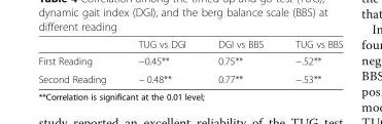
<table><thead><tr><td></td><td>TUG vs DGI</td><td>DGI vs BBS</td><td>TUG vs BBS</td></tr></thead><tbody><tr><td>First Reading</td><td>−0.45**</td><td>0.75**</td><td>−.52**</td></tr><tr><td>Second Reading</td><td>− 0.48**</td><td>0.77**</td><td>−.53**</td></tr></tbody></table>